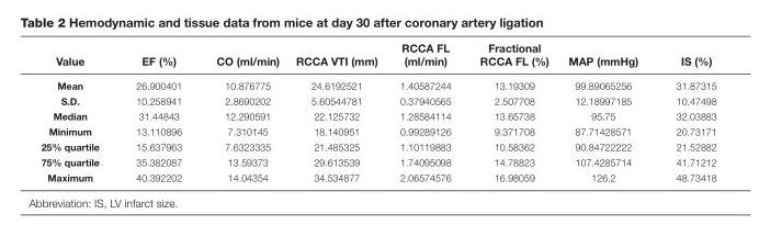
<table><thead><tr><td>Value</td><td>EF (%)</td><td>CO (ml/min)</td><td>RCCA VTI (mm)</td><td>RCCA FL (ml/min)</td><td>Fractional RCCA FL (%)</td><td>MAP (mmHg)</td><td>IS (%)</td></tr></thead><tbody><tr><td>Mean</td><td>26.900401</td><td>10.876775</td><td>24.6192521</td><td>1.40587244</td><td>13.19309</td><td>99.89065256</td><td>31.87315</td></tr><tr><td>S.D.</td><td>10.258941</td><td>2.8690202</td><td>5.60544781</td><td>0.37940565</td><td>2.507708</td><td>12.18997185</td><td>10.47498</td></tr><tr><td>Median</td><td>31.44843</td><td>12.290591</td><td>22.125732</td><td>1.28584114</td><td>13.65738</td><td>95.75</td><td>32.03883</td></tr><tr><td>Minimum</td><td>13.110896</td><td>7.310145</td><td>18.140951</td><td>0.99289126</td><td>9.371708</td><td>87.71428571</td><td>20.73171</td></tr><tr><td>25% quartile</td><td>15.637963</td><td>7.6323335</td><td>21.485325</td><td>1.10119883</td><td>10.58362</td><td>90.84722222</td><td>21.52882</td></tr><tr><td>75% quartile</td><td>35.382087</td><td>13.59373</td><td>29.613539</td><td>1.74095098</td><td>14.78823</td><td>107.4285714</td><td>41.71212</td></tr><tr><td>Maximum</td><td>40.392202</td><td>14.04354</td><td>34.534877</td><td>2.06574576</td><td>16.98059</td><td>126.2</td><td>48.73418</td></tr></tbody></table>